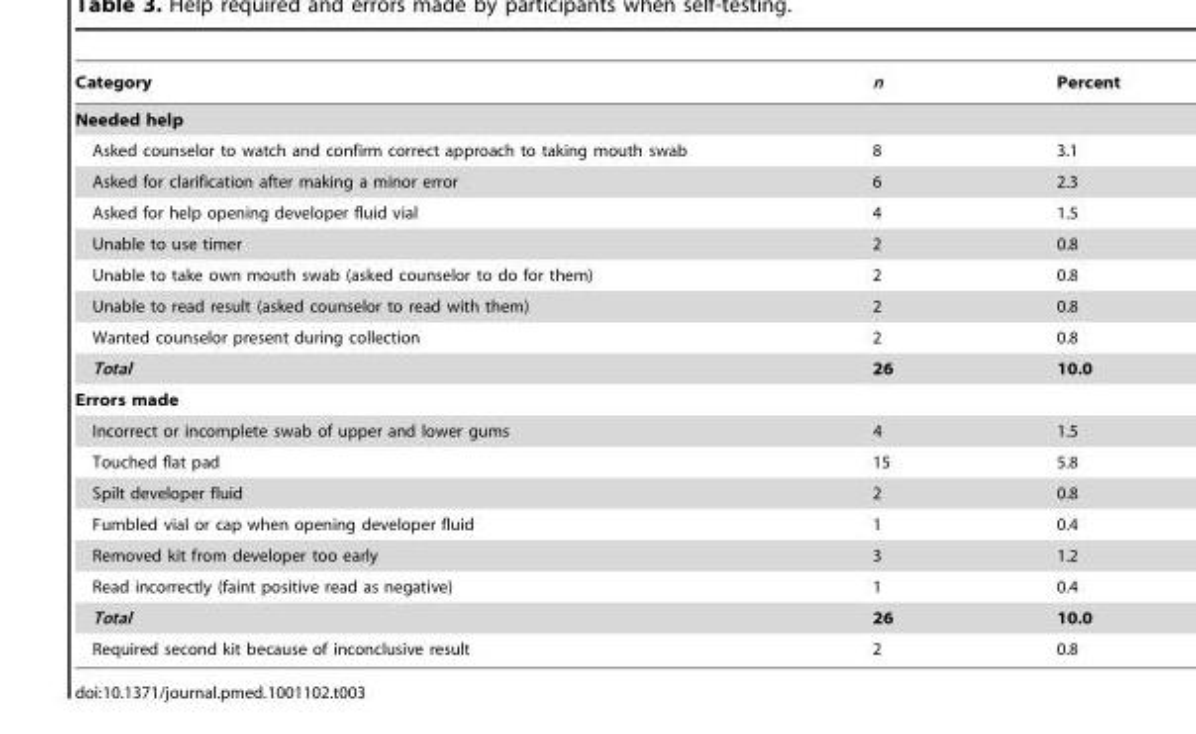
<table><thead><tr><td>Category</td><td>n</td><td>Percent</td></tr></thead><tbody><tr><td colspan="3">Needed help</td></tr><tr><td>Asked counselor to watch and confirm correct approach to taking mouth swab</td><td>8</td><td>3.1</td></tr><tr><td>Asked for clarification after making a minor error</td><td>6</td><td>2.3</td></tr><tr><td>Asked for help opening developer fluid vial</td><td>4</td><td>1.5</td></tr><tr><td>Unable to use timer</td><td>2</td><td>0.8</td></tr><tr><td>Unable to take own mouth swab (asked counselor to do for them)</td><td>2</td><td>0.8</td></tr><tr><td>Unable to read result (asked counselor to read with them)</td><td>2</td><td>0.8</td></tr><tr><td>Wanted counselor present during collection</td><td>2</td><td>0.8</td></tr><tr><td>Total</td><td>26</td><td>10.0</td></tr><tr><td colspan="3">Errors made</td></tr><tr><td>Incorrect or incomplete swab of upper and lower gums</td><td>4</td><td>1.5</td></tr><tr><td>Touched flat pad</td><td>15</td><td>5.8</td></tr><tr><td>Spilt developer fluid</td><td>2</td><td>0.8</td></tr><tr><td>Fumbled vial or cap when opening developer fluid</td><td>1</td><td>0.4</td></tr><tr><td>Removed kit from developer too early</td><td>3</td><td>1.2</td></tr><tr><td>Read incorrectly (faint positive read as negative)</td><td>1</td><td>0.4</td></tr><tr><td>Total</td><td>26</td><td>10.0</td></tr><tr><td>Required second kit because of inconclusive result</td><td>2</td><td>0.8</td></tr></tbody></table>